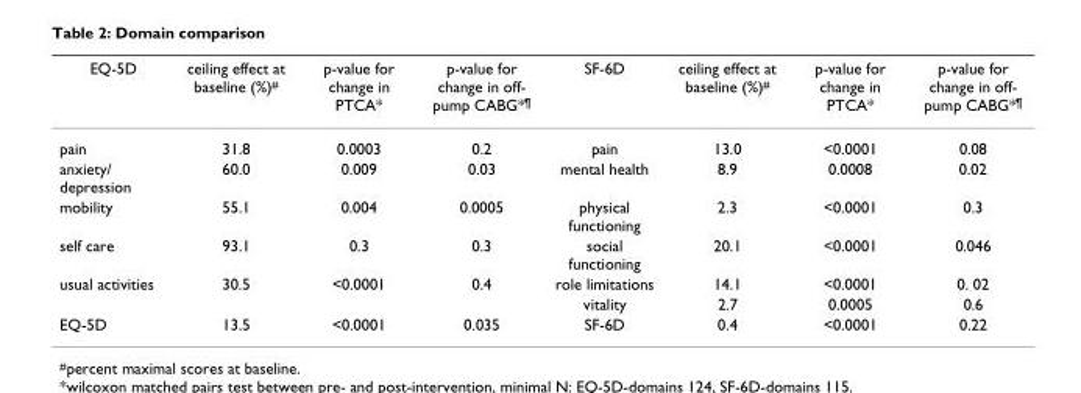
<table><thead><tr><td>EQ-5D</td><td>ceiling effect at baseline (%)<sup>#</sup></td><td>p-value for change in PTCA*</td><td>p-value for change in off- pump CABG*<sup>¶</sup></td><td>SF-6D</td><td>ceiling effect at baseline (%)<sup>#</sup></td><td>p-value for change in PTCA*</td><td>p-value for change in off- pump CABG*<sup>¶</sup></td></tr></thead><tbody><tr><td>pain</td><td>31.8</td><td>0.0003</td><td>0.2</td><td>pain</td><td>13.0</td><td>&lt;0.0001</td><td>0.08</td></tr><tr><td>anxiety/ depression</td><td>60.0</td><td>0.009</td><td>0.03</td><td>mental health</td><td>8.9</td><td>0.0008</td><td>0.02</td></tr><tr><td>mobility</td><td>55.1</td><td>0.004</td><td>0.0005</td><td>physical functioning</td><td>2.3</td><td>&lt;0.0001</td><td>0.3</td></tr><tr><td>self care</td><td>93.1</td><td>0.3</td><td>0.3</td><td>social functioning</td><td>20.1</td><td>&lt;0.0001</td><td>0.046</td></tr><tr><td rowspan="2">usual activities</td><td>30.5</td><td>&lt;0.0001</td><td>0.4</td><td>role limitations</td><td>14.1</td><td>&lt;0.0001</td><td>0. 02</td></tr><tr><td></td><td></td><td></td><td>vitality</td><td>2.7</td><td>0.0005</td><td>0.6</td></tr><tr><td>EQ-5D</td><td>13.5</td><td>&lt;0.0001</td><td>0.035</td><td>SF-6D</td><td>0.4</td><td>&lt;0.0001</td><td>0.22</td></tr></tbody></table>